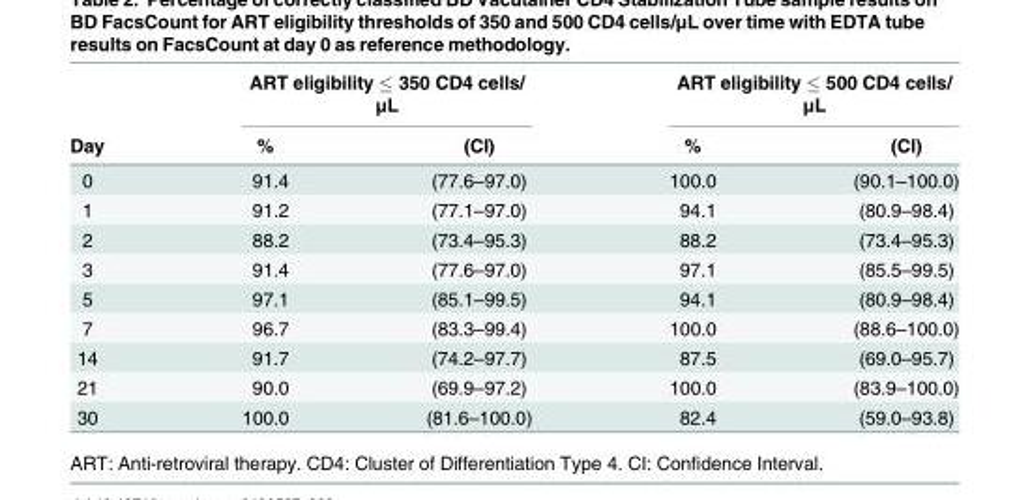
<table><thead><tr><td rowspan="2">Day</td><td colspan="2">ART eligibility ≤ 350 CD4 cells/ μL</td><td colspan="2">ART eligibility ≤ 500 CD4 cells/ μL</td></tr><tr><td>%</td><td>(CI)</td><td>%</td><td>(CI)</td></tr></thead><tbody><tr><td>0</td><td>91.4</td><td>(77.6–97.0)</td><td>100.0</td><td>(90.1–100.0)</td></tr><tr><td>1</td><td>91.2</td><td>(77.1–97.0)</td><td>94.1</td><td>(80.9–98.4)</td></tr><tr><td>2</td><td>88.2</td><td>(73.4–95.3)</td><td>88.2</td><td>(73.4–95.3)</td></tr><tr><td>3</td><td>91.4</td><td>(77.6–97.0)</td><td>97.1</td><td>(85.5–99.5)</td></tr><tr><td>5</td><td>97.1</td><td>(85.1–99.5)</td><td>94.1</td><td>(80.9–98.4)</td></tr><tr><td>7</td><td>96.7</td><td>(83.3–99.4)</td><td>100.0</td><td>(88.6–100.0)</td></tr><tr><td>14</td><td>91.7</td><td>(74.2–97.7)</td><td>87.5</td><td>(69.0–95.7)</td></tr><tr><td>21</td><td>90.0</td><td>(69.9–97.2)</td><td>100.0</td><td>(83.9–100.0)</td></tr><tr><td>30</td><td>100.0</td><td>(81.6–100.0)</td><td>82.4</td><td>(59.0–93.8)</td></tr></tbody></table>